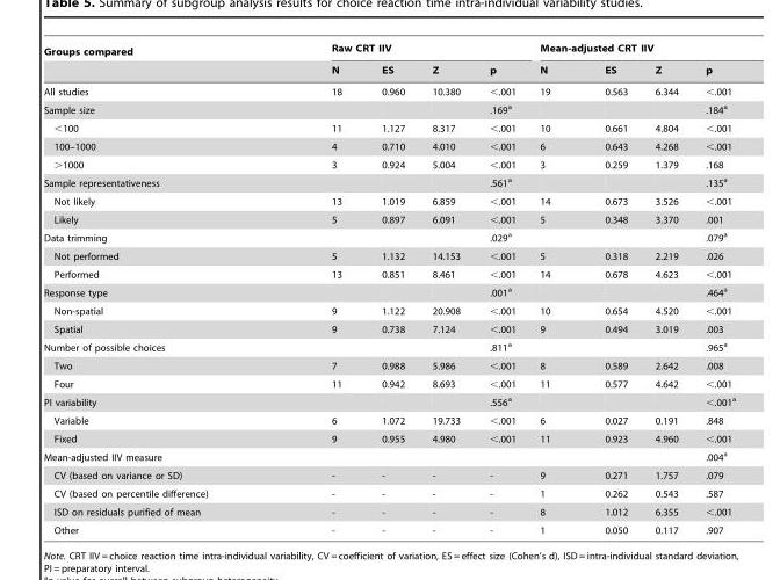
<table><thead><tr><td rowspan="2">Groups compared</td><td colspan="4">Raw CRT IIV</td><td colspan="4">Mean-adjusted CRT IIV</td></tr><tr><td>N</td><td>ES</td><td>Z</td><td>p</td><td>N</td><td>ES</td><td>Z</td><td>p</td></tr></thead><tbody><tr><td>All studies</td><td>18</td><td>0.960</td><td>10.380</td><td>&lt;.001</td><td>19</td><td>0.563</td><td>6.344</td><td>&lt;.001</td></tr><tr><td>Sample size</td><td></td><td></td><td></td><td>.169<sup>a</sup></td><td></td><td></td><td></td><td>.184<sup>a</sup></td></tr><tr><td>&lt;100</td><td>11</td><td>1.127</td><td>8.317</td><td>&lt;.001</td><td>10</td><td>0.661</td><td>4.804</td><td>&lt;.001</td></tr><tr><td>100–1000</td><td>4</td><td>0.710</td><td>4.010</td><td>&lt;.001</td><td>6</td><td>0.643</td><td>4.268</td><td>&lt;.001</td></tr><tr><td>&gt;1000</td><td>3</td><td>0.924</td><td>5.004</td><td>&lt;.001</td><td>3</td><td>0.259</td><td>1.379</td><td>.168</td></tr><tr><td>Sample representativeness</td><td></td><td></td><td></td><td>.561<sup>a</sup></td><td></td><td></td><td></td><td>.135<sup>a</sup></td></tr><tr><td>Not likely</td><td>13</td><td>1.019</td><td>6.859</td><td>&lt;.001</td><td>14</td><td>0.673</td><td>3.526</td><td>&lt;.001</td></tr><tr><td>Likely</td><td>5</td><td>0.897</td><td>6.091</td><td>&lt;.001</td><td>5</td><td>0.348</td><td>3.370</td><td>.001</td></tr><tr><td>Data trimming</td><td></td><td></td><td></td><td>.029<sup>a</sup></td><td></td><td></td><td></td><td>.079<sup>a</sup></td></tr><tr><td>Not performed</td><td>5</td><td>1.132</td><td>14.153</td><td>&lt;.001</td><td>5</td><td>0.318</td><td>2.219</td><td>.026</td></tr><tr><td>Performed</td><td>13</td><td>0.851</td><td>8.461</td><td>&lt;.001</td><td>14</td><td>0.678</td><td>4.623</td><td>&lt;.001</td></tr><tr><td>Response type</td><td></td><td></td><td></td><td>.001<sup>a</sup></td><td></td><td></td><td></td><td>.464<sup>a</sup></td></tr><tr><td>Non-spatial</td><td>9</td><td>1.122</td><td>20.908</td><td>&lt;.001</td><td>10</td><td>0.654</td><td>4.520</td><td>&lt;.001</td></tr><tr><td>Spatial</td><td>9</td><td>0.738</td><td>7.124</td><td>&lt;.001</td><td>9</td><td>0.494</td><td>3.019</td><td>.003</td></tr><tr><td>Number of possible choices</td><td></td><td></td><td></td><td>.811<sup>a</sup></td><td></td><td></td><td></td><td>.965<sup>a</sup></td></tr><tr><td>Two</td><td>7</td><td>0.988</td><td>5.986</td><td>&lt;.001</td><td>8</td><td>0.589</td><td>2.642</td><td>.008</td></tr><tr><td>Four</td><td>11</td><td>0.942</td><td>8.693</td><td>&lt;.001</td><td>11</td><td>0.577</td><td>4.642</td><td>&lt;.001</td></tr><tr><td>PI variability</td><td></td><td></td><td></td><td>.556<sup>a</sup></td><td></td><td></td><td></td><td>&lt;.001<sup>a</sup></td></tr><tr><td>Variable</td><td>6</td><td>1.072</td><td>19.733</td><td>&lt;.001</td><td>6</td><td>0.027</td><td>0.191</td><td>.848</td></tr><tr><td>Fixed</td><td>9</td><td>0.955</td><td>4.980</td><td>&lt;.001</td><td>11</td><td>0.923</td><td>4.960</td><td>&lt;.001</td></tr><tr><td>Mean-adjusted IIV measure</td><td></td><td></td><td></td><td></td><td></td><td></td><td></td><td>.004<sup>a</sup></td></tr><tr><td>CV (based on variance or SD)</td><td>-</td><td>-</td><td>-</td><td>-</td><td>9</td><td>0.271</td><td>1.757</td><td>.079</td></tr><tr><td>CV (based on percentile difference)</td><td>-</td><td>-</td><td>-</td><td>-</td><td>1</td><td>0.262</td><td>0.543</td><td>.587</td></tr><tr><td>ISD on residuals purified of mean</td><td>-</td><td>-</td><td>-</td><td>-</td><td>8</td><td>1.012</td><td>6.355</td><td>&lt;.001</td></tr><tr><td>Other</td><td>-</td><td>-</td><td>-</td><td>-</td><td>1</td><td>0.050</td><td>0.117</td><td>.907</td></tr></tbody></table>